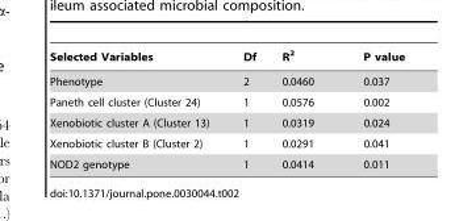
<table><thead><tr><td>Selected Variables</td><td>Df</td><td>R<sup>2</sup></td><td>P value</td></tr></thead><tbody><tr><td>Phenotype</td><td>2</td><td>0.0460</td><td>0.037</td></tr><tr><td>Paneth cell cluster (Cluster 24)</td><td>1</td><td>0.0576</td><td>0.002</td></tr><tr><td>Xenobiotic cluster A (Cluster 13)</td><td>1</td><td>0.0319</td><td>0.024</td></tr><tr><td>Xenobiotic cluster B (Cluster 2)</td><td>1</td><td>0.0291</td><td>0.041</td></tr><tr><td>NOD2 genotype</td><td>1</td><td>0.0414</td><td>0.011</td></tr></tbody></table>